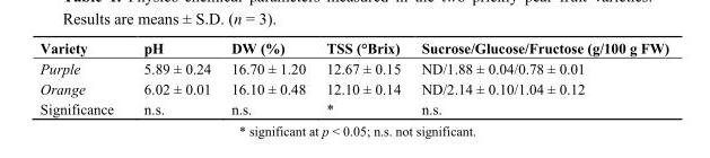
<table><thead><tr><td>Variety</td><td>pH</td><td>DW (%)</td><td>TSS (°Brix)</td><td>Sucrose/Glucose/Fructose (g/100 g FW)</td></tr></thead><tbody><tr><td>Purple</td><td>5.89 ± 0.24</td><td>16.70 ± 1.20</td><td>12.67 ± 0.15</td><td>ND/1.88 ± 0.04/0.78 ± 0.01</td></tr><tr><td>Orange</td><td>6.02 ± 0.01</td><td>16.10 ± 0.48</td><td>12.10 ± 0.14</td><td>ND/2.14 ± 0.10/1.04 ± 0.12</td></tr><tr><td>Significance</td><td>n.s.</td><td>n.s.</td><td>*</td><td>n.s.</td></tr></tbody></table>